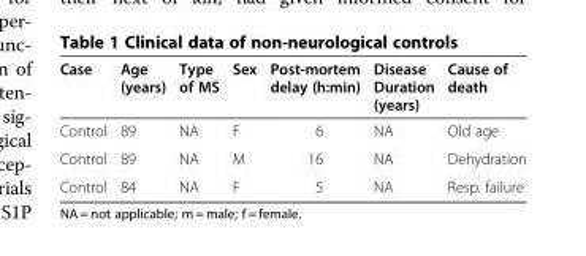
<table><thead><tr><td>Case</td><td>Age (years)</td><td>Type of MS</td><td>Sex</td><td>Post-mortem delay (h:min)</td><td>Disease Duration (years)</td><td>Cause of death</td></tr></thead><tbody><tr><td>Control</td><td>89</td><td>NA</td><td>F</td><td>6</td><td>NA</td><td>Old age</td></tr><tr><td>Control</td><td>89</td><td>NA</td><td>M</td><td>16</td><td>NA</td><td>Dehydration</td></tr><tr><td>Control</td><td>84</td><td>NA</td><td>F</td><td>5</td><td>NA</td><td>Resp. failure</td></tr></tbody></table>